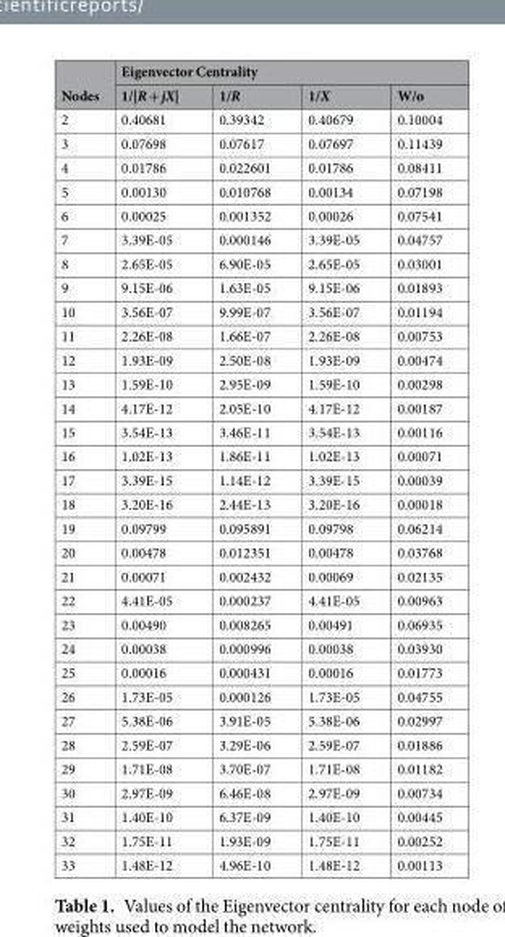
<table><thead><tr><td rowspan="2">Nodes</td><td colspan="4">Eigenvector Centrality</td></tr><tr><td>1/|R + jX|</td><td>1/R</td><td>1/X</td><td>W/o</td></tr></thead><tbody><tr><td>2</td><td>0.40681</td><td>0.39342</td><td>0.40679</td><td>0.10004</td></tr><tr><td>3</td><td>0.07698</td><td>0.07617</td><td>0.07697</td><td>0.11439</td></tr><tr><td>4</td><td>0.01786</td><td>0.022601</td><td>0.01786</td><td>0.08411</td></tr><tr><td>5</td><td>0.00130</td><td>0.010768</td><td>0.00134</td><td>0.07198</td></tr><tr><td>6</td><td>0.00025</td><td>0.001352</td><td>0.00026</td><td>0.07541</td></tr><tr><td>7</td><td>3.39E-05</td><td>0.000146</td><td>3.39E-05</td><td>0.04757</td></tr><tr><td>8</td><td>2.65E-05</td><td>6.90E-05</td><td>2.65E-05</td><td>0.03001</td></tr><tr><td>9</td><td>9.15E-06</td><td>1.63E-05</td><td>9.15E-06</td><td>0.01893</td></tr><tr><td>10</td><td>3.56E-07</td><td>9.99E-07</td><td>3.56E-07</td><td>0.01194</td></tr><tr><td>11</td><td>2.26E-08</td><td>1.66E-07</td><td>2.26E-08</td><td>0.00753</td></tr><tr><td>12</td><td>1.93E-09</td><td>2.50E-08</td><td>1.93E-09</td><td>0.00474</td></tr><tr><td>13</td><td>1.59E-10</td><td>2.95E-09</td><td>1.59E-10</td><td>0.00298</td></tr><tr><td>14</td><td>4.17E-12</td><td>2.05E-10</td><td>4.17E-12</td><td>0.00187</td></tr><tr><td>15</td><td>3.54E-13</td><td>3.46E-11</td><td>3.54E-13</td><td>0.00116</td></tr><tr><td>16</td><td>1.02E-13</td><td>1.86E-11</td><td>1.02E-13</td><td>0.00071</td></tr><tr><td>17</td><td>3.39E-15</td><td>1.14E-12</td><td>3.39E-15</td><td>0.00039</td></tr><tr><td>18</td><td>3.20E-16</td><td>2.44E-13</td><td>3.20E-16</td><td>0.00018</td></tr><tr><td>19</td><td>0.09799</td><td>0.095891</td><td>0.09798</td><td>0.06214</td></tr><tr><td>20</td><td>0.00478</td><td>0.012351</td><td>0.00478</td><td>0.03768</td></tr><tr><td>21</td><td>0.00071</td><td>0.002432</td><td>0.00069</td><td>0.02135</td></tr><tr><td>22</td><td>4.41E-05</td><td>0.000237</td><td>4.41E-05</td><td>0.00963</td></tr><tr><td>23</td><td>0.00490</td><td>0.008265</td><td>0.00491</td><td>0.06935</td></tr><tr><td>24</td><td>0.00038</td><td>0.000996</td><td>0.00038</td><td>0.03930</td></tr><tr><td>25</td><td>0.00016</td><td>0.000431</td><td>0.00016</td><td>0.01773</td></tr><tr><td>26</td><td>1.73E-05</td><td>0.000126</td><td>1.73E-05</td><td>0.04755</td></tr><tr><td>27</td><td>5.38E-06</td><td>3.91E-05</td><td>5.38E-06</td><td>0.02997</td></tr><tr><td>28</td><td>2.59E-07</td><td>3.29E-06</td><td>2.59E-07</td><td>0.01886</td></tr><tr><td>29</td><td>1.71E-08</td><td>3.70E-07</td><td>1.71E-08</td><td>0.01182</td></tr><tr><td>30</td><td>2.97E-09</td><td>6.46E-08</td><td>2.97E-09</td><td>0.00734</td></tr><tr><td>31</td><td>1.40E-10</td><td>6.37E-09</td><td>1.40E-10</td><td>0.00445</td></tr><tr><td>32</td><td>1.75E-11</td><td>1.93E-09</td><td>1.75E-11</td><td>0.00252</td></tr><tr><td>33</td><td>1.48E-12</td><td>4.96E-10</td><td>1.48E-12</td><td>0.00113</td></tr></tbody></table>